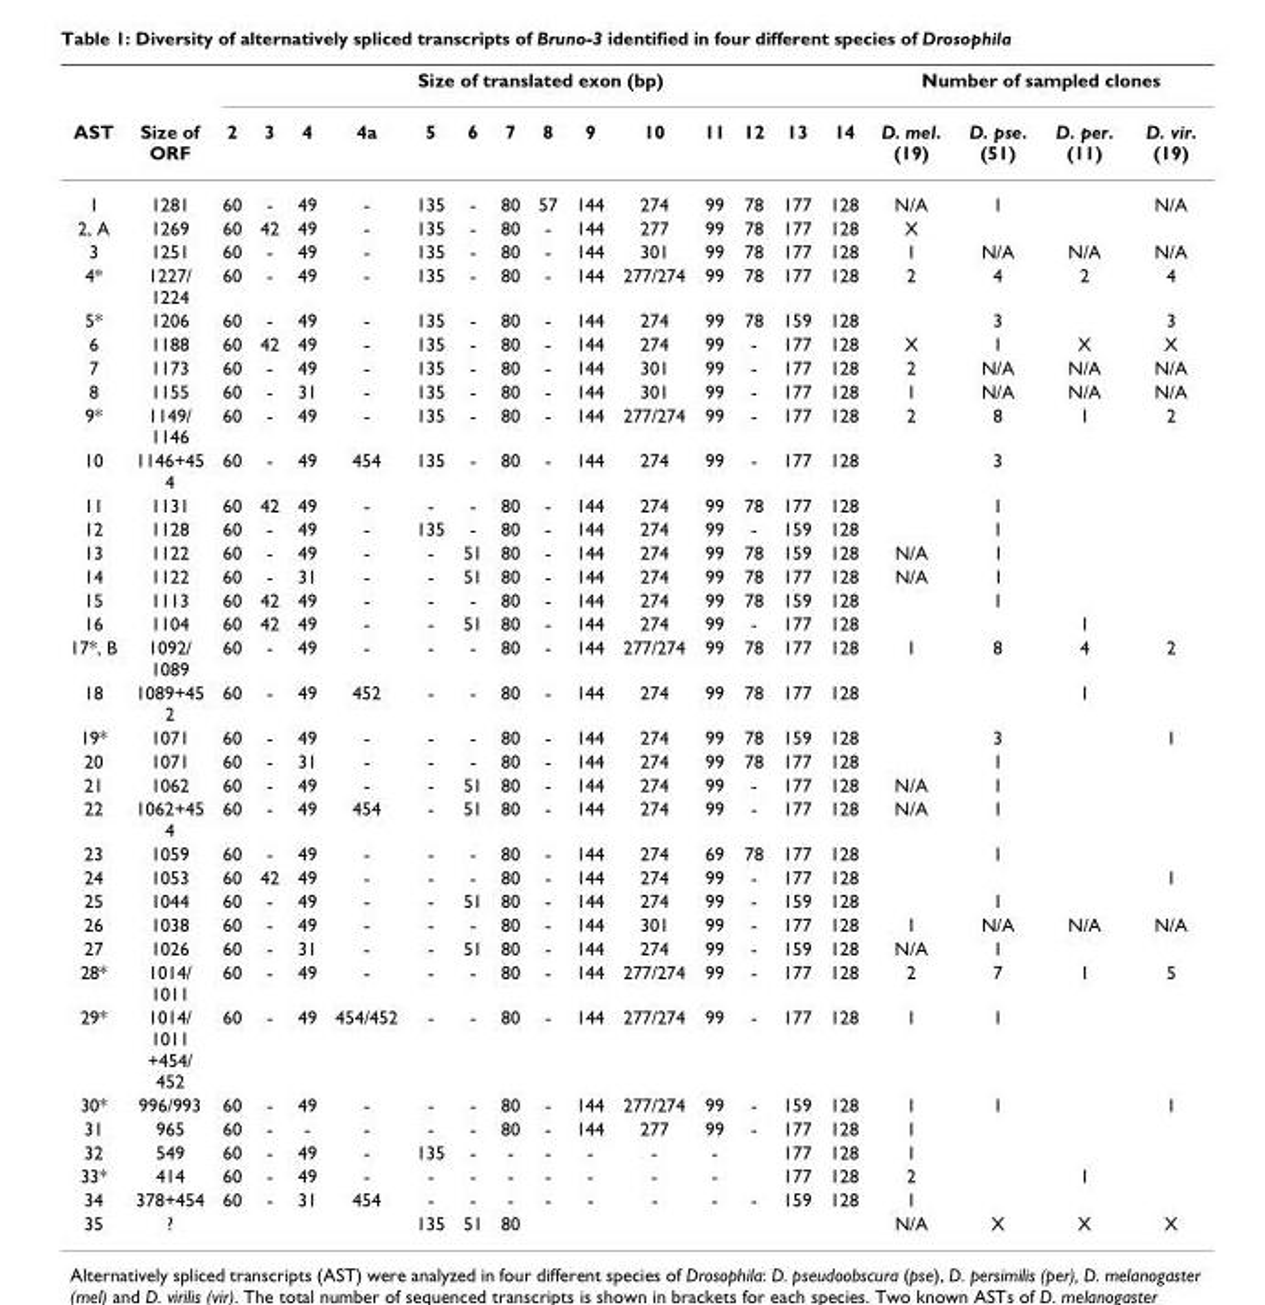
<table><thead><tr><td rowspan="2">AST</td><td rowspan="2">Size of ORF</td><td colspan="14">Size of translated exon (bp)</td><td colspan="4">Number of sampled clones</td></tr><tr><td>2</td><td>3</td><td>4</td><td>4a</td><td>5</td><td>6</td><td>7</td><td>8</td><td>9</td><td>10</td><td>11</td><td>12</td><td>13</td><td>14</td><td>D. mel. (19)</td><td>D. pse. (51)</td><td>D. per. (11)</td><td>D. vir. (19)</td></tr></thead><tbody><tr><td>1</td><td>1281</td><td>60</td><td>-</td><td>49</td><td>-</td><td>135</td><td>-</td><td>80</td><td>57</td><td>144</td><td>274</td><td>99</td><td>78</td><td>177</td><td>128</td><td>N/A</td><td>1</td><td></td><td>N/A</td></tr><tr><td>2, A</td><td>1269</td><td>60</td><td>42</td><td>49</td><td>-</td><td>135</td><td>-</td><td>80</td><td>-</td><td>144</td><td>277</td><td>99</td><td>78</td><td>177</td><td>128</td><td>X</td><td></td><td></td><td></td></tr><tr><td>3</td><td>1251</td><td>60</td><td>-</td><td>49</td><td>-</td><td>135</td><td>-</td><td>80</td><td>-</td><td>144</td><td>301</td><td>99</td><td>78</td><td>177</td><td>128</td><td>1</td><td>N/A</td><td>N/A</td><td>N/A</td></tr><tr><td>4*</td><td>1227/ 1224</td><td>60</td><td>-</td><td>49</td><td>-</td><td>135</td><td>-</td><td>80</td><td>-</td><td>144</td><td>277/274</td><td>99</td><td>78</td><td>177</td><td>128</td><td>2</td><td>4</td><td>2</td><td>4</td></tr><tr><td>5*</td><td>1206</td><td>60</td><td>-</td><td>49</td><td>-</td><td>135</td><td>-</td><td>80</td><td>-</td><td>144</td><td>274</td><td>99</td><td>78</td><td>159</td><td>128</td><td></td><td>3</td><td></td><td>3</td></tr><tr><td>6</td><td>1188</td><td>60</td><td>42</td><td>49</td><td>-</td><td>135</td><td>-</td><td>80</td><td>-</td><td>144</td><td>274</td><td>99</td><td>-</td><td>177</td><td>128</td><td>X</td><td>1</td><td>X</td><td>X</td></tr><tr><td>7</td><td>1173</td><td>60</td><td>-</td><td>49</td><td>-</td><td>135</td><td>-</td><td>80</td><td>-</td><td>144</td><td>301</td><td>99</td><td>-</td><td>177</td><td>128</td><td>2</td><td>N/A</td><td>N/A</td><td>N/A</td></tr><tr><td>8</td><td>1155</td><td>60</td><td>-</td><td>31</td><td>-</td><td>135</td><td>-</td><td>80</td><td>-</td><td>144</td><td>301</td><td>99</td><td>-</td><td>177</td><td>128</td><td>1</td><td>N/A</td><td>N/A</td><td>N/A</td></tr><tr><td>9*</td><td>1149/ 1146</td><td>60</td><td>-</td><td>49</td><td>-</td><td>135</td><td>-</td><td>80</td><td>-</td><td>144</td><td>277/274</td><td>99</td><td>-</td><td>177</td><td>128</td><td>2</td><td>8</td><td>1</td><td>2</td></tr><tr><td>10</td><td>1146+45 4</td><td>60</td><td>-</td><td>49</td><td>454</td><td>135</td><td>-</td><td>80</td><td>-</td><td>144</td><td>274</td><td>99</td><td>-</td><td>177</td><td>128</td><td></td><td>3</td><td></td><td></td></tr><tr><td>11</td><td>1131</td><td>60</td><td>42</td><td>49</td><td>-</td><td>-</td><td>-</td><td>80</td><td>-</td><td>144</td><td>274</td><td>99</td><td>78</td><td>177</td><td>128</td><td></td><td>1</td><td></td><td></td></tr><tr><td>12</td><td>1128</td><td>60</td><td>-</td><td>49</td><td>-</td><td>135</td><td>-</td><td>80</td><td>-</td><td>144</td><td>274</td><td>99</td><td>-</td><td>159</td><td>128</td><td></td><td>1</td><td></td><td></td></tr><tr><td>13</td><td>1122</td><td>60</td><td>-</td><td>49</td><td>-</td><td>-</td><td>51</td><td>80</td><td>-</td><td>144</td><td>274</td><td>99</td><td>78</td><td>159</td><td>128</td><td>N/A</td><td>1</td><td></td><td></td></tr><tr><td>14</td><td>1122</td><td>60</td><td>-</td><td>31</td><td>-</td><td>-</td><td>51</td><td>80</td><td>-</td><td>144</td><td>274</td><td>99</td><td>78</td><td>177</td><td>128</td><td>N/A</td><td>1</td><td></td><td></td></tr><tr><td>15</td><td>1113</td><td>60</td><td>42</td><td>49</td><td>-</td><td>-</td><td>-</td><td>80</td><td>-</td><td>144</td><td>274</td><td>99</td><td>78</td><td>159</td><td>128</td><td></td><td>1</td><td></td><td></td></tr><tr><td>16</td><td>1104</td><td>60</td><td>42</td><td>49</td><td>-</td><td>-</td><td>51</td><td>80</td><td>-</td><td>144</td><td>274</td><td>99</td><td>-</td><td>177</td><td>128</td><td></td><td></td><td>1</td><td></td></tr><tr><td>17*, B</td><td>1092/ 1089</td><td>60</td><td>-</td><td>49</td><td>-</td><td>-</td><td>-</td><td>80</td><td>-</td><td>144</td><td>277/274</td><td>99</td><td>78</td><td>177</td><td>128</td><td>1</td><td>8</td><td>4</td><td>2</td></tr><tr><td>18</td><td>1089+45 2</td><td>60</td><td>-</td><td>49</td><td>452</td><td>-</td><td>-</td><td>80</td><td>-</td><td>144</td><td>274</td><td>99</td><td>78</td><td>177</td><td>128</td><td></td><td></td><td>1</td><td></td></tr><tr><td>19*</td><td>1071</td><td>60</td><td>-</td><td>49</td><td>-</td><td>-</td><td>-</td><td>80</td><td>-</td><td>144</td><td>274</td><td>99</td><td>78</td><td>159</td><td>128</td><td></td><td>3</td><td></td><td>1</td></tr><tr><td>20</td><td>1071</td><td>60</td><td>-</td><td>31</td><td>-</td><td>-</td><td>-</td><td>80</td><td>-</td><td>144</td><td>274</td><td>99</td><td>78</td><td>177</td><td>128</td><td></td><td>1</td><td></td><td></td></tr><tr><td>21</td><td>1062</td><td>60</td><td>-</td><td>49</td><td>-</td><td>-</td><td>51</td><td>80</td><td>-</td><td>144</td><td>274</td><td>99</td><td>-</td><td>177</td><td>128</td><td>N/A</td><td>1</td><td></td><td></td></tr><tr><td>22</td><td>1062+45 4</td><td>60</td><td>-</td><td>49</td><td>454</td><td>-</td><td>51</td><td>80</td><td>-</td><td>144</td><td>274</td><td>99</td><td>-</td><td>177</td><td>128</td><td>N/A</td><td>1</td><td></td><td></td></tr><tr><td>23</td><td>1059</td><td>60</td><td>-</td><td>49</td><td>-</td><td>-</td><td>-</td><td>80</td><td>-</td><td>144</td><td>274</td><td>69</td><td>78</td><td>177</td><td>128</td><td></td><td>1</td><td></td><td></td></tr><tr><td>24</td><td>1053</td><td>60</td><td>42</td><td>49</td><td>-</td><td>-</td><td>-</td><td>80</td><td>-</td><td>144</td><td>274</td><td>99</td><td>-</td><td>177</td><td>128</td><td></td><td></td><td></td><td>1</td></tr><tr><td>25</td><td>1044</td><td>60</td><td>-</td><td>49</td><td>-</td><td>-</td><td>51</td><td>80</td><td>-</td><td>144</td><td>274</td><td>99</td><td>-</td><td>159</td><td>128</td><td></td><td>1</td><td></td><td></td></tr><tr><td>26</td><td>1038</td><td>60</td><td>-</td><td>49</td><td>-</td><td>-</td><td>-</td><td>80</td><td>-</td><td>144</td><td>301</td><td>99</td><td>-</td><td>177</td><td>128</td><td>1</td><td>N/A</td><td>N/A</td><td>N/A</td></tr><tr><td>27</td><td>1026</td><td>60</td><td>-</td><td>31</td><td>-</td><td>-</td><td>51</td><td>80</td><td>-</td><td>144</td><td>274</td><td>99</td><td>-</td><td>159</td><td>128</td><td>N/A</td><td>1</td><td></td><td></td></tr><tr><td>28*</td><td>1014/ 1011</td><td>60</td><td>-</td><td>49</td><td>-</td><td>-</td><td>-</td><td>80</td><td>-</td><td>144</td><td>277/274</td><td>99</td><td>-</td><td>177</td><td>128</td><td>2</td><td>7</td><td>1</td><td>5</td></tr><tr><td>29*</td><td>1014/ 1011 +454/ 452</td><td>60</td><td>-</td><td>49</td><td>454/452</td><td>-</td><td>-</td><td>80</td><td>-</td><td>144</td><td>277/274</td><td>99</td><td>-</td><td>177</td><td>128</td><td>1</td><td>1</td><td></td><td></td></tr><tr><td>30*</td><td>996/993</td><td>60</td><td>-</td><td>49</td><td>-</td><td>-</td><td>-</td><td>80</td><td>-</td><td>144</td><td>277/274</td><td>99</td><td>-</td><td>159</td><td>128</td><td>1</td><td>1</td><td></td><td>1</td></tr><tr><td>31</td><td>965</td><td>60</td><td>-</td><td>-</td><td>-</td><td>-</td><td>-</td><td>80</td><td>-</td><td>144</td><td>277</td><td>99</td><td>-</td><td>177</td><td>128</td><td>1</td><td></td><td></td><td></td></tr><tr><td>32</td><td>549</td><td>60</td><td>-</td><td>49</td><td>-</td><td>135</td><td>-</td><td>-</td><td>-</td><td>-</td><td>-</td><td>-</td><td></td><td>177</td><td>128</td><td>1</td><td></td><td></td><td></td></tr><tr><td>33*</td><td>414</td><td>60</td><td>-</td><td>49</td><td>-</td><td>-</td><td>-</td><td>-</td><td>-</td><td>-</td><td>-</td><td>-</td><td></td><td>177</td><td>128</td><td>2</td><td></td><td>1</td><td></td></tr><tr><td>34</td><td>378+454</td><td>60</td><td>-</td><td>31</td><td>454</td><td>-</td><td>-</td><td>-</td><td>-</td><td>-</td><td>-</td><td>-</td><td>-</td><td>159</td><td>128</td><td>1</td><td></td><td></td><td></td></tr><tr><td>35</td><td>?</td><td></td><td></td><td></td><td></td><td>135</td><td>51</td><td>80</td><td></td><td></td><td></td><td></td><td></td><td></td><td></td><td>N/A</td><td>X</td><td>X</td><td>X</td></tr></tbody></table>